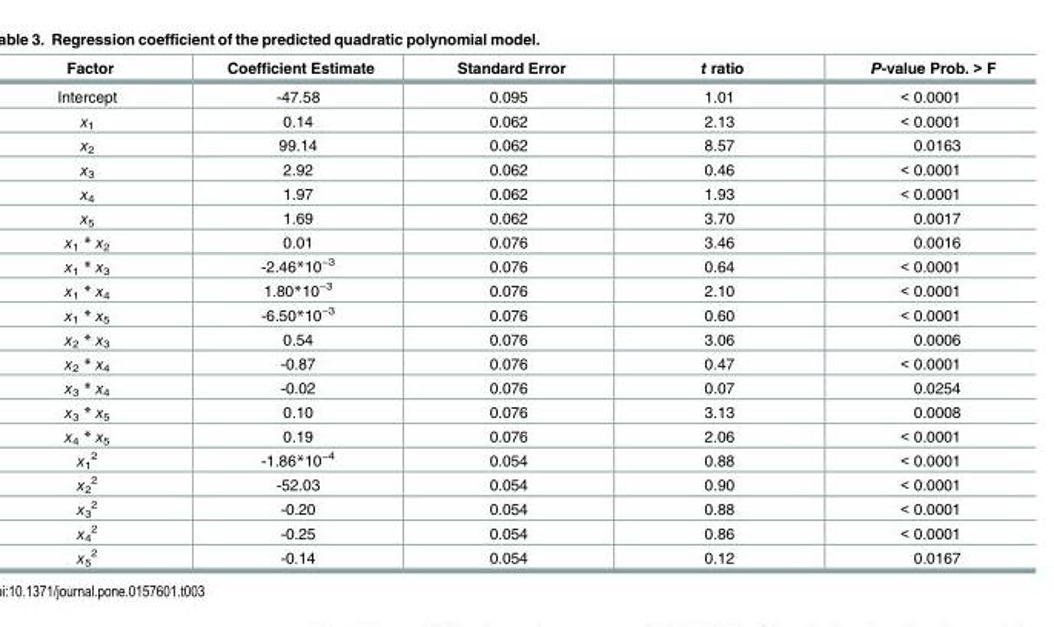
<table><thead><tr><td>Factor</td><td>Coefficient Estimate</td><td>Standard Error</td><td>t ratio</td><td>P-value Prob. &gt; F</td></tr></thead><tbody><tr><td>Intercept</td><td>-47.58</td><td>0.095</td><td>1.01</td><td>&lt; 0.0001</td></tr><tr><td>x<sub>1</sub></td><td>0.14</td><td>0.062</td><td>2.13</td><td>&lt; 0.0001</td></tr><tr><td>x<sub>2</sub></td><td>99.14</td><td>0.062</td><td>8.57</td><td>0.0163</td></tr><tr><td>x<sub>3</sub></td><td>2.92</td><td>0.062</td><td>0.46</td><td>&lt; 0.0001</td></tr><tr><td>x<sub>4</sub></td><td>1.97</td><td>0.062</td><td>1.93</td><td>&lt; 0.0001</td></tr><tr><td>x<sub>5</sub></td><td>1.69</td><td>0.062</td><td>3.70</td><td>0.0017</td></tr><tr><td>x<sub>1</sub> * x<sub>2</sub></td><td>0.01</td><td>0.076</td><td>3.46</td><td>0.0016</td></tr><tr><td>x<sub>1</sub> * x<sub>3</sub></td><td>-2.46*10<sup>−3</sup></td><td>0.076</td><td>0.64</td><td>&lt; 0.0001</td></tr><tr><td>x<sub>1</sub> * x<sub>4</sub></td><td>1.80*10<sup>−3</sup></td><td>0.076</td><td>2.10</td><td>&lt; 0.0001</td></tr><tr><td>x<sub>1</sub> * x<sub>5</sub></td><td>-6.50*10<sup>−3</sup></td><td>0.076</td><td>0.60</td><td>&lt; 0.0001</td></tr><tr><td>x<sub>2</sub> * x<sub>3</sub></td><td>0.54</td><td>0.076</td><td>3.06</td><td>0.0006</td></tr><tr><td>x<sub>2</sub> * x<sub>4</sub></td><td>-0.87</td><td>0.076</td><td>0.47</td><td>&lt; 0.0001</td></tr><tr><td>x<sub>3</sub> * x<sub>4</sub></td><td>-0.02</td><td>0.076</td><td>0.07</td><td>0.0254</td></tr><tr><td>x<sub>3</sub> * x<sub>5</sub></td><td>0.10</td><td>0.076</td><td>3.13</td><td>0.0008</td></tr><tr><td>x<sub>4</sub> * x<sub>5</sub></td><td>0.19</td><td>0.076</td><td>2.06</td><td>&lt; 0.0001</td></tr><tr><td>x<sub>1</sub> <sup>2</sup></td><td>-1.86*10<sup>−4</sup></td><td>0.054</td><td>0.88</td><td>&lt; 0.0001</td></tr><tr><td>x<sub>2</sub> <sup>2</sup></td><td>-52.03</td><td>0.054</td><td>0.90</td><td>&lt; 0.0001</td></tr><tr><td>x<sub>3</sub> <sup>2</sup></td><td>-0.20</td><td>0.054</td><td>0.88</td><td>&lt; 0.0001</td></tr><tr><td>x<sub>4</sub> <sup>2</sup></td><td>-0.25</td><td>0.054</td><td>0.86</td><td>&lt; 0.0001</td></tr><tr><td>x<sub>5</sub> <sup>2</sup></td><td>-0.14</td><td>0.054</td><td>0.12</td><td>0.0167</td></tr></tbody></table>